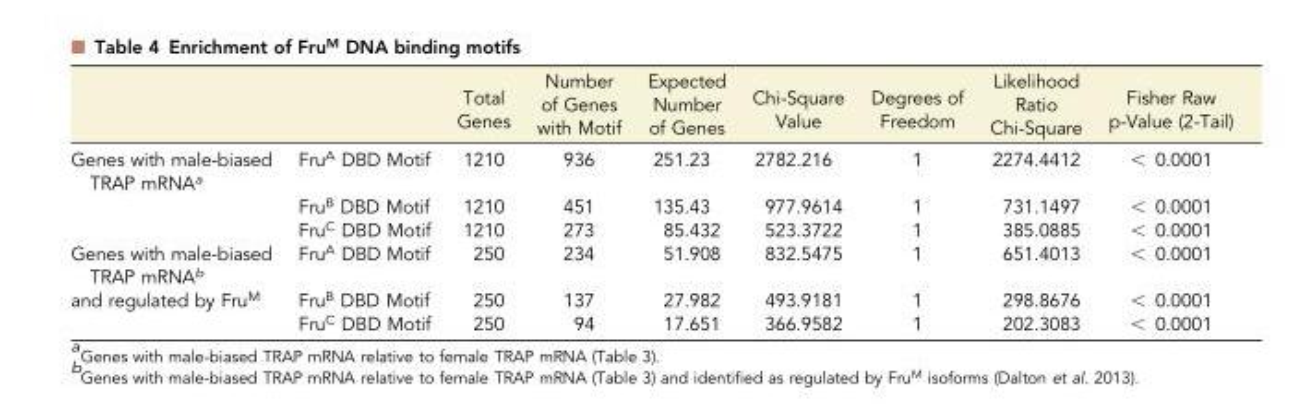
<table><thead><tr><td></td><td></td><td>Total Genes</td><td>Number of Genes with Motif</td><td>Expected Number of Genes</td><td>Chi-Square Value</td><td>Degrees of Freedom</td><td>Likelihood Ratio Chi-Square</td><td>Fisher Raw p-Value (2-Tail)</td></tr></thead><tbody><tr><td rowspan="3">Genes with male-biased TRAP mRNA<sup>a</sup></td><td>Fru<sup>A</sup> DBD Motif</td><td>1210</td><td>936</td><td>251.23</td><td>2782.216</td><td>1</td><td>2274.4412</td><td>&lt; 0.0001</td></tr><tr><td>Fru<sup>B</sup> DBD Motif</td><td>1210</td><td>451</td><td>135.43</td><td>977.9614</td><td>1</td><td>731.1497</td><td>&lt; 0.0001</td></tr><tr><td>Fru<sup>C</sup> DBD Motif</td><td>1210</td><td>273</td><td>85.432</td><td>523.3722</td><td>1</td><td>385.0885</td><td>&lt; 0.0001</td></tr><tr><td>Genes with male-biased TRAP mRNA<sup>b</sup></td><td>Fru<sup>A</sup> DBD Motif</td><td>250</td><td>234</td><td>51.908</td><td>832.5475</td><td>1</td><td>651.4013</td><td>&lt; 0.0001</td></tr><tr><td rowspan="2">and regulated by Fru<sup>M</sup></td><td>Fru<sup>B</sup> DBD Motif</td><td>250</td><td>137</td><td>27.982</td><td>493.9181</td><td>1</td><td>298.8676</td><td>&lt; 0.0001</td></tr><tr><td>Fru<sup>C</sup> DBD Motif</td><td>250</td><td>94</td><td>17.651</td><td>366.9582</td><td>1</td><td>202.3083</td><td>&lt; 0.0001</td></tr></tbody></table>